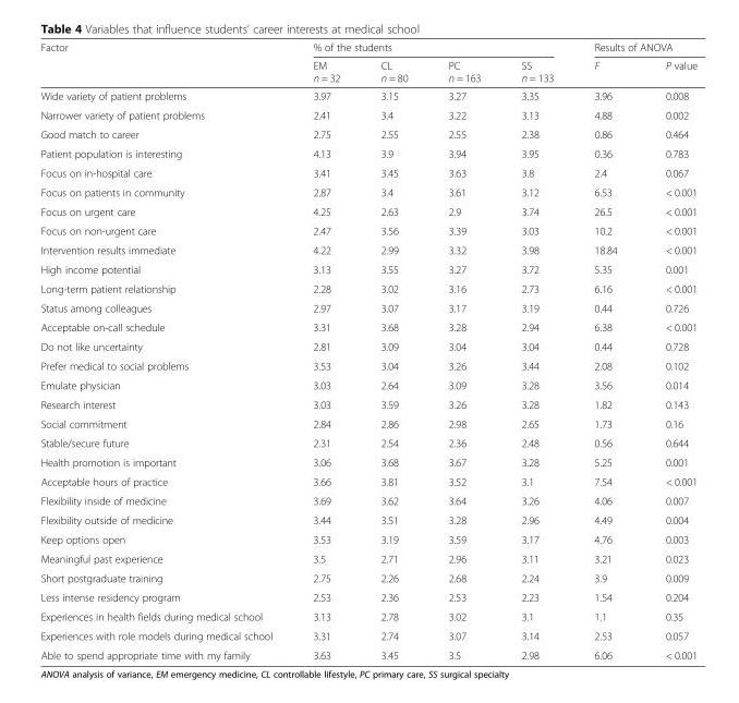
<table><thead><tr><td rowspan="2">Factor</td><td colspan="4">% of the students</td><td colspan="2">Results of ANOVA</td></tr><tr><td>EM n = 32</td><td>CL n = 80</td><td>PC n = 163</td><td>SS n = 133</td><td>F</td><td>P value</td></tr></thead><tbody><tr><td>Wide variety of patient problems</td><td>3.97</td><td>3.15</td><td>3.27</td><td>3.35</td><td>3.96</td><td>0.008</td></tr><tr><td>Narrower variety of patient problems</td><td>2.41</td><td>3.4</td><td>3.22</td><td>3.13</td><td>4.88</td><td>0.002</td></tr><tr><td>Good match to career</td><td>2.75</td><td>2.55</td><td>2.55</td><td>2.38</td><td>0.86</td><td>0.464</td></tr><tr><td>Patient population is interesting</td><td>4.13</td><td>3.9</td><td>3.94</td><td>3.95</td><td>0.36</td><td>0.783</td></tr><tr><td>Focus on in-hospital care</td><td>3.41</td><td>3.45</td><td>3.63</td><td>3.8</td><td>2.4</td><td>0.067</td></tr><tr><td>Focus on patients in community</td><td>2.87</td><td>3.4</td><td>3.61</td><td>3.12</td><td>6.53</td><td>&lt; 0.001</td></tr><tr><td>Focus on urgent care</td><td>4.25</td><td>2.63</td><td>2.9</td><td>3.74</td><td>26.5</td><td>&lt; 0.001</td></tr><tr><td>Focus on non-urgent care</td><td>2.47</td><td>3.56</td><td>3.39</td><td>3.03</td><td>10.2</td><td>&lt; 0.001</td></tr><tr><td>Intervention results immediate</td><td>4.22</td><td>2.99</td><td>3.32</td><td>3.98</td><td>18.84</td><td>&lt; 0.001</td></tr><tr><td>High income potential</td><td>3.13</td><td>3.55</td><td>3.27</td><td>3.72</td><td>5.35</td><td>0.001</td></tr><tr><td>Long-term patient relationship</td><td>2.28</td><td>3.02</td><td>3.16</td><td>2.73</td><td>6.16</td><td>&lt; 0.001</td></tr><tr><td>Status among colleagues</td><td>2.97</td><td>3.07</td><td>3.17</td><td>3.19</td><td>0.44</td><td>0.726</td></tr><tr><td>Acceptable on-call schedule</td><td>3.31</td><td>3.68</td><td>3.28</td><td>2.94</td><td>6.38</td><td>&lt; 0.001</td></tr><tr><td>Do not like uncertainty</td><td>2.81</td><td>3.09</td><td>3.04</td><td>3.04</td><td>0.44</td><td>0.728</td></tr><tr><td>Prefer medical to social problems</td><td>3.53</td><td>3.04</td><td>3.26</td><td>3.44</td><td>2.08</td><td>0.102</td></tr><tr><td>Emulate physician</td><td>3.03</td><td>2.64</td><td>3.09</td><td>3.28</td><td>3.56</td><td>0.014</td></tr><tr><td>Research interest</td><td>3.03</td><td>3.59</td><td>3.26</td><td>3.28</td><td>1.82</td><td>0.143</td></tr><tr><td>Social commitment</td><td>2.84</td><td>2.86</td><td>2.98</td><td>2.65</td><td>1.73</td><td>0.16</td></tr><tr><td>Stable/secure future</td><td>2.31</td><td>2.54</td><td>2.36</td><td>2.48</td><td>0.56</td><td>0.644</td></tr><tr><td>Health promotion is important</td><td>3.06</td><td>3.68</td><td>3.67</td><td>3.28</td><td>5.25</td><td>0.001</td></tr><tr><td>Acceptable hours of practice</td><td>3.66</td><td>3.81</td><td>3.52</td><td>3.1</td><td>7.54</td><td>&lt; 0.001</td></tr><tr><td>Flexibility inside of medicine</td><td>3.69</td><td>3.62</td><td>3.64</td><td>3.26</td><td>4.06</td><td>0.007</td></tr><tr><td>Flexibility outside of medicine</td><td>3.44</td><td>3.51</td><td>3.28</td><td>2.96</td><td>4.49</td><td>0.004</td></tr><tr><td>Keep options open</td><td>3.53</td><td>3.19</td><td>3.59</td><td>3.17</td><td>4.76</td><td>0.003</td></tr><tr><td>Meaningful past experience</td><td>3.5</td><td>2.71</td><td>2.96</td><td>3.11</td><td>3.21</td><td>0.023</td></tr><tr><td>Short postgraduate training</td><td>2.75</td><td>2.26</td><td>2.68</td><td>2.24</td><td>3.9</td><td>0.009</td></tr><tr><td>Less intense residency program</td><td>2.53</td><td>2.36</td><td>2.53</td><td>2.23</td><td>1.54</td><td>0.204</td></tr><tr><td>Experiences in health fields during medical school</td><td>3.13</td><td>2.78</td><td>3.02</td><td>3.1</td><td>1.1</td><td>0.35</td></tr><tr><td>Experiences with role models during medical school</td><td>3.31</td><td>2.74</td><td>3.07</td><td>3.14</td><td>2.53</td><td>0.057</td></tr><tr><td>Able to spend appropriate time with my family</td><td>3.63</td><td>3.45</td><td>3.5</td><td>2.98</td><td>6.06</td><td>&lt; 0.001</td></tr></tbody></table>